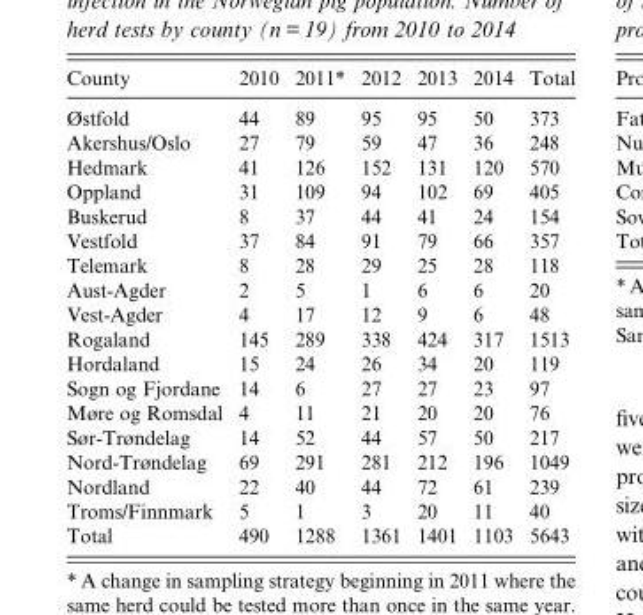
<table><thead><tr><td>County</td><td>2010</td><td>2011*</td><td>2012</td><td>2013</td><td>2014</td><td>Total</td></tr></thead><tbody><tr><td>Østfold</td><td>44</td><td>89</td><td>95</td><td>95</td><td>50</td><td>373</td></tr><tr><td>Akershus/Oslo</td><td>27</td><td>79</td><td>59</td><td>47</td><td>36</td><td>248</td></tr><tr><td>Hedmark</td><td>41</td><td>126</td><td>152</td><td>131</td><td>120</td><td>570</td></tr><tr><td>Oppland</td><td>31</td><td>109</td><td>94</td><td>102</td><td>69</td><td>405</td></tr><tr><td>Buskerud</td><td>8</td><td>37</td><td>44</td><td>41</td><td>24</td><td>154</td></tr><tr><td>Vestfold</td><td>37</td><td>84</td><td>91</td><td>79</td><td>66</td><td>357</td></tr><tr><td>Telemark</td><td>8</td><td>28</td><td>29</td><td>25</td><td>28</td><td>118</td></tr><tr><td>Aust-Agder</td><td>2</td><td>5</td><td>1</td><td>6</td><td>6</td><td>20</td></tr><tr><td>Vest-Agder</td><td>4</td><td>17</td><td>12</td><td>9</td><td>6</td><td>48</td></tr><tr><td>Rogaland</td><td>145</td><td>289</td><td>338</td><td>424</td><td>317</td><td>1513</td></tr><tr><td>Hordaland</td><td>15</td><td>24</td><td>26</td><td>34</td><td>20</td><td>119</td></tr><tr><td>Sogn og Fjordane</td><td>14</td><td>6</td><td>27</td><td>27</td><td>23</td><td>97</td></tr><tr><td>Møre og Romsdal</td><td>4</td><td>11</td><td>21</td><td>20</td><td>20</td><td>76</td></tr><tr><td>Sør-Trøndelag</td><td>14</td><td>52</td><td>44</td><td>57</td><td>50</td><td>217</td></tr><tr><td>Nord-Trøndelag</td><td>69</td><td>291</td><td>281</td><td>212</td><td>196</td><td>1049</td></tr><tr><td>Nordland</td><td>22</td><td>40</td><td>44</td><td>72</td><td>61</td><td>239</td></tr><tr><td>Troms/Finnmark</td><td>5</td><td>1</td><td>3</td><td>20</td><td>11</td><td>40</td></tr><tr><td>Total</td><td>490</td><td>1288</td><td>1361</td><td>1401</td><td>1103</td><td>5643</td></tr></tbody></table>